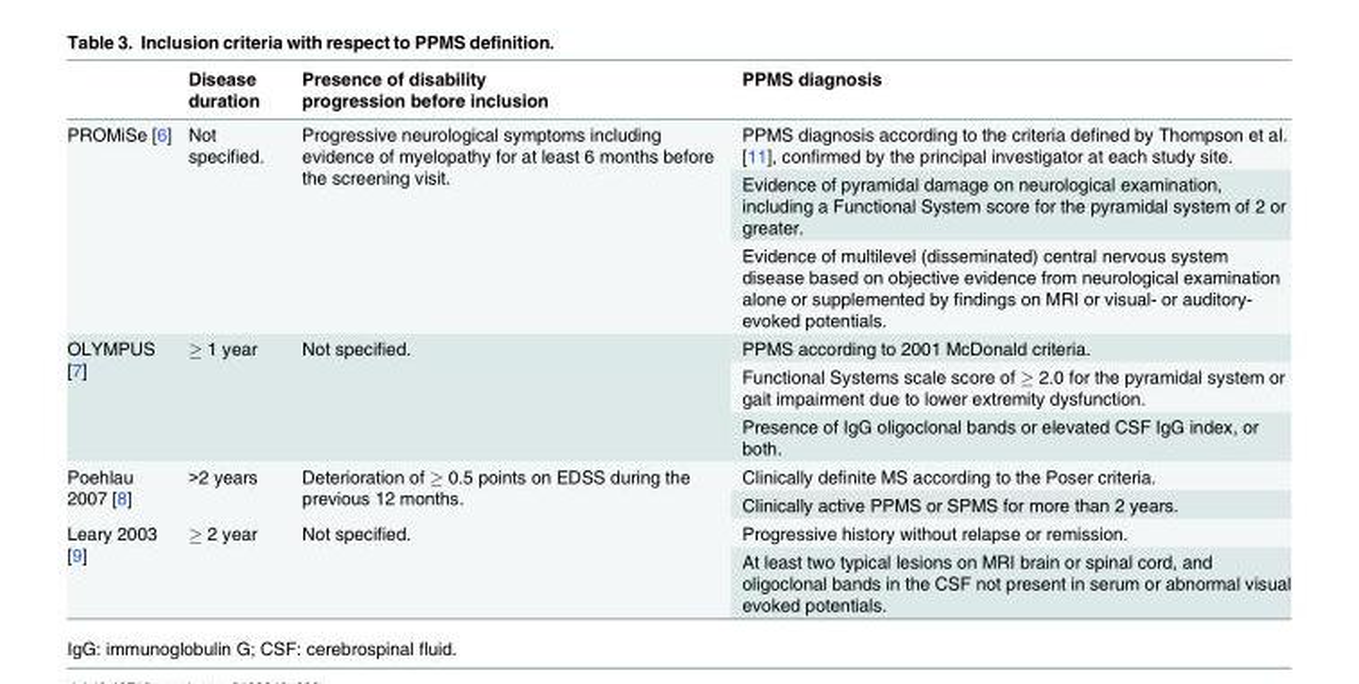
<table><thead><tr><td></td><td>Disease duration</td><td>Presence of disability progression before inclusion</td><td>PPMS diagnosis</td></tr></thead><tbody><tr><td rowspan="3">PROMiSe [6]</td><td rowspan="3">Not specified.</td><td rowspan="3">Progressive neurological symptoms including evidence of myelopathy for at least 6 months before the screening visit.</td><td>PPMS diagnosis according to the criteria defined by Thompson et al. [11], confirmed by the principal investigator at each study site.</td></tr><tr><td>Evidence of pyramidal damage on neurological examination, including a Functional System score for the pyramidal system of 2 or greater.</td></tr><tr><td>Evidence of multilevel (disseminated) central nervous system disease based on objective evidence from neurological examination alone or supplemented by findings on MRI or visual- or auditory- evoked potentials.</td></tr><tr><td rowspan="3">OLYMPUS [7]</td><td rowspan="3">≥ 1 year</td><td rowspan="3">Not specified.</td><td>PPMS according to 2001 McDonald criteria.</td></tr><tr><td>Functional Systems scale score of ≥ 2.0 for the pyramidal system or gait impairment due to lower extremity dysfunction.</td></tr><tr><td>Presence of IgG oligoclonal bands or elevated CSF IgG index, or both.</td></tr><tr><td rowspan="2">Poehlau 2007 [8]</td><td rowspan="2">&gt;2 years</td><td rowspan="2">Deterioration of ≥ 0.5 points on EDSS during the previous 12 months.</td><td>Clinically definite MS according to the Poser criteria.</td></tr><tr><td>Clinically active PPMS or SPMS for more than 2 years.</td></tr><tr><td rowspan="2">Leary 2003 [9]</td><td rowspan="2">≥ 2 year</td><td rowspan="2">Not specified.</td><td>Progressive history without relapse or remission.</td></tr><tr><td>At least two typical lesions on MRI brain or spinal cord, and oligoclonal bands in the CSF not present in serum or abnormal visual evoked potentials.</td></tr></tbody></table>